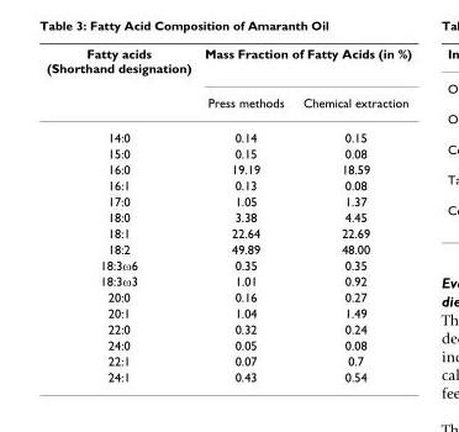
<table><thead><tr><td rowspan="2">Fatty acids (Shorthand designation)</td><td colspan="2">Mass Fraction of Fatty Acids (in %)</td></tr><tr><td>Press methods</td><td>Chemical extraction</td></tr></thead><tbody><tr><td>14:0</td><td>0.14</td><td>0.15</td></tr><tr><td>15:0</td><td>0.15</td><td>0.08</td></tr><tr><td>16:0</td><td>19.19</td><td>18.59</td></tr><tr><td>16:1</td><td>0.13</td><td>0.08</td></tr><tr><td>17:0</td><td>1.05</td><td>1.37</td></tr><tr><td>18:0</td><td>3.38</td><td>4.45</td></tr><tr><td>18:1</td><td>22.64</td><td>22.69</td></tr><tr><td>18:2</td><td>49.89</td><td>48.00</td></tr><tr><td>18:3ω6</td><td>0.35</td><td>0.35</td></tr><tr><td>18:3ω3</td><td>1.01</td><td>0.92</td></tr><tr><td>20:0</td><td>0.16</td><td>0.27</td></tr><tr><td>20:1</td><td>1.04</td><td>1.49</td></tr><tr><td>22:0</td><td>0.32</td><td>0.24</td></tr><tr><td>24:0</td><td>0.05</td><td>0.08</td></tr><tr><td>22:1</td><td>0.07</td><td>0.7</td></tr><tr><td>24:1</td><td>0.43</td><td>0.54</td></tr></tbody></table>